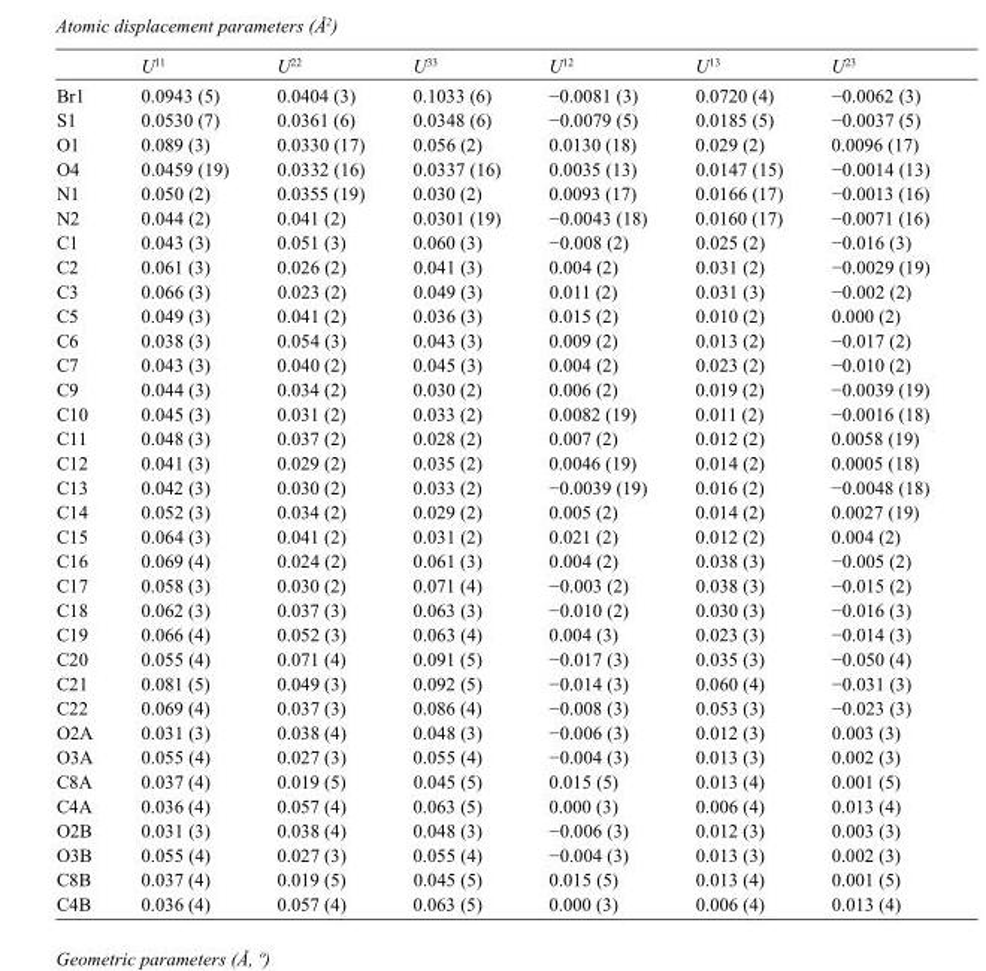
<table><thead><tr><td></td><td>U<sup>11</sup></td><td>U<sup>22</sup></td><td>U<sup>33</sup></td><td>U<sup>12</sup></td><td>U<sup>13</sup></td><td>U<sup>23</sup></td></tr></thead><tbody><tr><td>Br1</td><td>0.0943 (5)</td><td>0.0404 (3)</td><td>0.1033 (6)</td><td>−0.0081 (3)</td><td>0.0720 (4)</td><td>−0.0062 (3)</td></tr><tr><td>S1</td><td>0.0530 (7)</td><td>0.0361 (6)</td><td>0.0348 (6)</td><td>−0.0079 (5)</td><td>0.0185 (5)</td><td>−0.0037 (5)</td></tr><tr><td>O1</td><td>0.089 (3)</td><td>0.0330 (17)</td><td>0.056 (2)</td><td>0.0130 (18)</td><td>0.029 (2)</td><td>0.0096 (17)</td></tr><tr><td>O4</td><td>0.0459 (19)</td><td>0.0332 (16)</td><td>0.0337 (16)</td><td>0.0035 (13)</td><td>0.0147 (15)</td><td>−0.0014 (13)</td></tr><tr><td>N1</td><td>0.050 (2)</td><td>0.0355 (19)</td><td>0.030 (2)</td><td>0.0093 (17)</td><td>0.0166 (17)</td><td>−0.0013 (16)</td></tr><tr><td>N2</td><td>0.044 (2)</td><td>0.041 (2)</td><td>0.0301 (19)</td><td>−0.0043 (18)</td><td>0.0160 (17)</td><td>−0.0071 (16)</td></tr><tr><td>C1</td><td>0.043 (3)</td><td>0.051 (3)</td><td>0.060 (3)</td><td>−0.008 (2)</td><td>0.025 (2)</td><td>−0.016 (3)</td></tr><tr><td>C2</td><td>0.061 (3)</td><td>0.026 (2)</td><td>0.041 (3)</td><td>0.004 (2)</td><td>0.031 (2)</td><td>−0.0029 (19)</td></tr><tr><td>C3</td><td>0.066 (3)</td><td>0.023 (2)</td><td>0.049 (3)</td><td>0.011 (2)</td><td>0.031 (3)</td><td>−0.002 (2)</td></tr><tr><td>C5</td><td>0.049 (3)</td><td>0.041 (2)</td><td>0.036 (3)</td><td>0.015 (2)</td><td>0.010 (2)</td><td>0.000 (2)</td></tr><tr><td>C6</td><td>0.038 (3)</td><td>0.054 (3)</td><td>0.043 (3)</td><td>0.009 (2)</td><td>0.013 (2)</td><td>−0.017 (2)</td></tr><tr><td>C7</td><td>0.043 (3)</td><td>0.040 (2)</td><td>0.045 (3)</td><td>0.004 (2)</td><td>0.023 (2)</td><td>−0.010 (2)</td></tr><tr><td>C9</td><td>0.044 (3)</td><td>0.034 (2)</td><td>0.030 (2)</td><td>0.006 (2)</td><td>0.019 (2)</td><td>−0.0039 (19)</td></tr><tr><td>C10</td><td>0.045 (3)</td><td>0.031 (2)</td><td>0.033 (2)</td><td>0.0082 (19)</td><td>0.011 (2)</td><td>−0.0016 (18)</td></tr><tr><td>C11</td><td>0.048 (3)</td><td>0.037 (2)</td><td>0.028 (2)</td><td>0.007 (2)</td><td>0.012 (2)</td><td>0.0058 (19)</td></tr><tr><td>C12</td><td>0.041 (3)</td><td>0.029 (2)</td><td>0.035 (2)</td><td>0.0046 (19)</td><td>0.014 (2)</td><td>0.0005 (18)</td></tr><tr><td>C13</td><td>0.042 (3)</td><td>0.030 (2)</td><td>0.033 (2)</td><td>−0.0039 (19)</td><td>0.016 (2)</td><td>−0.0048 (18)</td></tr><tr><td>C14</td><td>0.052 (3)</td><td>0.034 (2)</td><td>0.029 (2)</td><td>0.005 (2)</td><td>0.014 (2)</td><td>0.0027 (19)</td></tr><tr><td>C15</td><td>0.064 (3)</td><td>0.041 (2)</td><td>0.031 (2)</td><td>0.021 (2)</td><td>0.012 (2)</td><td>0.004 (2)</td></tr><tr><td>C16</td><td>0.069 (4)</td><td>0.024 (2)</td><td>0.061 (3)</td><td>0.004 (2)</td><td>0.038 (3)</td><td>−0.005 (2)</td></tr><tr><td>C17</td><td>0.058 (3)</td><td>0.030 (2)</td><td>0.071 (4)</td><td>−0.003 (2)</td><td>0.038 (3)</td><td>−0.015 (2)</td></tr><tr><td>C18</td><td>0.062 (3)</td><td>0.037 (3)</td><td>0.063 (3)</td><td>−0.010 (2)</td><td>0.030 (3)</td><td>−0.016 (3)</td></tr><tr><td>C19</td><td>0.066 (4)</td><td>0.052 (3)</td><td>0.063 (4)</td><td>0.004 (3)</td><td>0.023 (3)</td><td>−0.014 (3)</td></tr><tr><td>C20</td><td>0.055 (4)</td><td>0.071 (4)</td><td>0.091 (5)</td><td>−0.017 (3)</td><td>0.035 (3)</td><td>−0.050 (4)</td></tr><tr><td>C21</td><td>0.081 (5)</td><td>0.049 (3)</td><td>0.092 (5)</td><td>−0.014 (3)</td><td>0.060 (4)</td><td>−0.031 (3)</td></tr><tr><td>C22</td><td>0.069 (4)</td><td>0.037 (3)</td><td>0.086 (4)</td><td>−0.008 (3)</td><td>0.053 (3)</td><td>−0.023 (3)</td></tr><tr><td>O2A</td><td>0.031 (3)</td><td>0.038 (4)</td><td>0.048 (3)</td><td>−0.006 (3)</td><td>0.012 (3)</td><td>0.003 (3)</td></tr><tr><td>O3A</td><td>0.055 (4)</td><td>0.027 (3)</td><td>0.055 (4)</td><td>−0.004 (3)</td><td>0.013 (3)</td><td>0.002 (3)</td></tr><tr><td>C8A</td><td>0.037 (4)</td><td>0.019 (5)</td><td>0.045 (5)</td><td>0.015 (5)</td><td>0.013 (4)</td><td>0.001 (5)</td></tr><tr><td>C4A</td><td>0.036 (4)</td><td>0.057 (4)</td><td>0.063 (5)</td><td>0.000 (3)</td><td>0.006 (4)</td><td>0.013 (4)</td></tr><tr><td>O2B</td><td>0.031 (3)</td><td>0.038 (4)</td><td>0.048 (3)</td><td>−0.006 (3)</td><td>0.012 (3)</td><td>0.003 (3)</td></tr><tr><td>O3B</td><td>0.055 (4)</td><td>0.027 (3)</td><td>0.055 (4)</td><td>−0.004 (3)</td><td>0.013 (3)</td><td>0.002 (3)</td></tr><tr><td>C8B</td><td>0.037 (4)</td><td>0.019 (5)</td><td>0.045 (5)</td><td>0.015 (5)</td><td>0.013 (4)</td><td>0.001 (5)</td></tr><tr><td>C4B</td><td>0.036 (4)</td><td>0.057 (4)</td><td>0.063 (5)</td><td>0.000 (3)</td><td>0.006 (4)</td><td>0.013 (4)</td></tr></tbody></table>